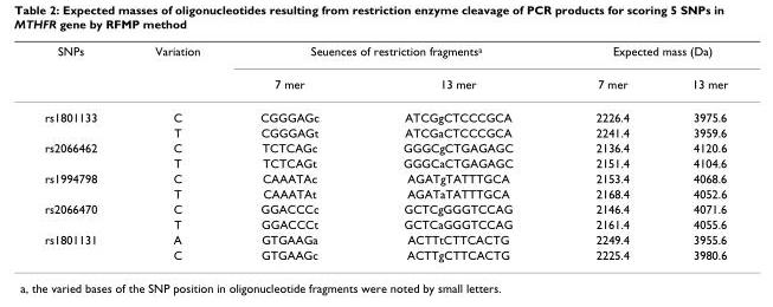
<table><thead><tr><td rowspan="2">SNPs</td><td rowspan="2">Variation</td><td colspan="2">Seuences of restriction fragments<sup>a</sup></td><td colspan="2">Expected mass (Da)</td></tr><tr><td>7 mer</td><td>13 mer</td><td>7 mer</td><td>13 mer</td></tr></thead><tbody><tr><td rowspan="2">rs1801133</td><td>C</td><td>CGGGAGc</td><td>ATCGgCTCCCGCA</td><td>2226.4</td><td>3975.6</td></tr><tr><td>T</td><td>CGGGAGt</td><td>ATCGaCTCCCGCA</td><td>2241.4</td><td>3959.6</td></tr><tr><td rowspan="2">rs2066462</td><td>C</td><td>TCTCAGc</td><td>GGGCgCTGAGAGC</td><td>2136.4</td><td>4120.6</td></tr><tr><td>T</td><td>TCTCAGt</td><td>GGGCaCTGAGAGC</td><td>2151.4</td><td>4104.6</td></tr><tr><td rowspan="2">rs1994798</td><td>C</td><td>CAAATAc</td><td>AGATgTATTTGCA</td><td>2153.4</td><td>4068.6</td></tr><tr><td>T</td><td>CAAATAt</td><td>AGATaTATTTGCA</td><td>2168.4</td><td>4052.6</td></tr><tr><td rowspan="2">rs2066470</td><td>C</td><td>GGACCCc</td><td>GCTCgGGGTCCAG</td><td>2146.4</td><td>4071.6</td></tr><tr><td>T</td><td>GGACCCt</td><td>GCTCaGGGTCCAG</td><td>2161.4</td><td>4055.6</td></tr><tr><td rowspan="2">rs1801131</td><td>A</td><td>GTGAAGa</td><td>ACTTtCTTCACTG</td><td>2249.4</td><td>3955.6</td></tr><tr><td>C</td><td>GTGAAGc</td><td>ACTTgCTTCACTG</td><td>2225.4</td><td>3980.6</td></tr></tbody></table>